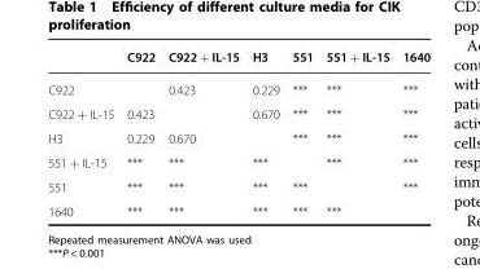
<table><thead><tr><td></td><td>C922</td><td>C922 + IL-15</td><td>H3</td><td>551</td><td>551 + IL-15</td><td>1640</td></tr></thead><tbody><tr><td>C922</td><td></td><td>0.423</td><td>0.229</td><td>***</td><td>***</td><td>***</td></tr><tr><td>C922 + IL-15</td><td>0.423</td><td></td><td>0.670</td><td>***</td><td>***</td><td>***</td></tr><tr><td>H3</td><td>0.229</td><td>0.670</td><td></td><td>***</td><td>***</td><td>***</td></tr><tr><td>551 + IL-15</td><td>***</td><td>***</td><td>***</td><td></td><td>***</td><td>***</td></tr><tr><td>551</td><td>***</td><td>***</td><td>***</td><td>***</td><td></td><td>***</td></tr><tr><td>1640</td><td>***</td><td>***</td><td>***</td><td>***</td><td>***</td><td></td></tr></tbody></table>